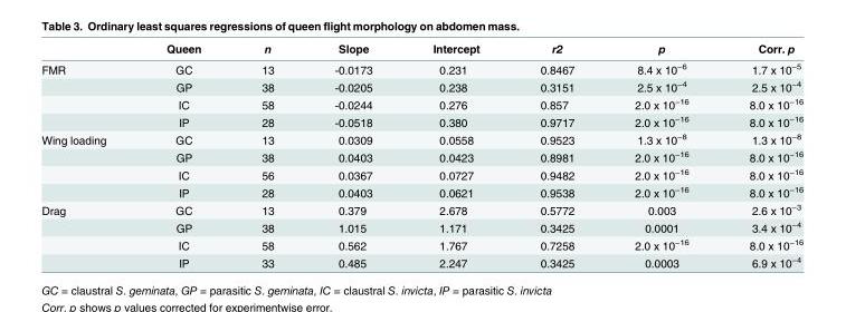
<table><thead><tr><td></td><td>Queen</td><td>n</td><td>Slope</td><td>Intercept</td><td>r2</td><td>p</td><td>Corr. p</td></tr></thead><tbody><tr><td rowspan="4">FMR</td><td>GC</td><td>13</td><td>-0.0173</td><td>0.231</td><td>0.8467</td><td>8.4 x 10<sup>−6</sup></td><td>1.7 x 10<sup>−5</sup></td></tr><tr><td>GP</td><td>38</td><td>-0.0205</td><td>0.238</td><td>0.3151</td><td>2.5 x 10<sup>−4</sup></td><td>2.5 x 10<sup>−4</sup></td></tr><tr><td>IC</td><td>58</td><td>-0.0244</td><td>0.276</td><td>0.857</td><td>2.0 x 10<sup>−16</sup></td><td>8.0 x 10<sup>−16</sup></td></tr><tr><td>IP</td><td>28</td><td>-0.0518</td><td>0.380</td><td>0.9717</td><td>2.0 x 10<sup>−16</sup></td><td>8.0 x 10<sup>−16</sup></td></tr><tr><td rowspan="4">Wing loading</td><td>GC</td><td>13</td><td>0.0309</td><td>0.0558</td><td>0.9523</td><td>1.3 x 10<sup>−8</sup></td><td>1.3 x 10<sup>−8</sup></td></tr><tr><td>GP</td><td>38</td><td>0.0403</td><td>0.0423</td><td>0.8981</td><td>2.0 x 10<sup>−16</sup></td><td>8.0 x 10<sup>−16</sup></td></tr><tr><td>IC</td><td>56</td><td>0.0367</td><td>0.0727</td><td>0.9482</td><td>2.0 x 10<sup>−16</sup></td><td>8.0 x 10<sup>−16</sup></td></tr><tr><td>IP</td><td>28</td><td>0.0403</td><td>0.0621</td><td>0.9538</td><td>2.0 x 10<sup>−16</sup></td><td>8.0 x 10<sup>−16</sup></td></tr><tr><td rowspan="4">Drag</td><td>GC</td><td>13</td><td>0.379</td><td>2.678</td><td>0.5772</td><td>0.003</td><td>2.6 x 10<sup>−3</sup></td></tr><tr><td>GP</td><td>38</td><td>1.015</td><td>1.171</td><td>0.3425</td><td>0.0001</td><td>3.4 x 10<sup>−4</sup></td></tr><tr><td>IC</td><td>58</td><td>0.562</td><td>1.767</td><td>0.7258</td><td>2.0 x 10<sup>−16</sup></td><td>8.0 x 10<sup>−16</sup></td></tr><tr><td>IP</td><td>33</td><td>0.485</td><td>2.247</td><td>0.3425</td><td>0.0003</td><td>6.9 x 10<sup>−4</sup></td></tr></tbody></table>